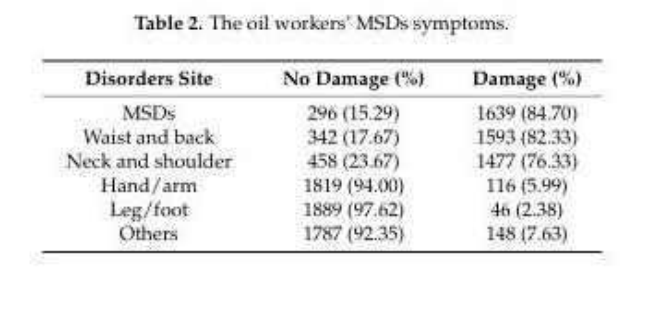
<table><thead><tr><td>Disorders Site</td><td>No Damage (%)</td><td>Damage (%)</td></tr></thead><tbody><tr><td>MSDs</td><td>296 (15.29)</td><td>1639 (84.70)</td></tr><tr><td>Waist and back</td><td>342 (17.67)</td><td>1593 (82.33)</td></tr><tr><td>Neck and shoulder</td><td>458 (23.67)</td><td>1477 (76.33)</td></tr><tr><td>Hand/arm</td><td>1819 (94.00)</td><td>116 (5.99)</td></tr><tr><td>Leg/foot</td><td>1889 (97.62)</td><td>46 (2.38)</td></tr><tr><td>Others</td><td>1787 (92.35)</td><td>148 (7.63)</td></tr></tbody></table>